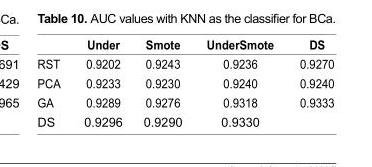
<table><thead><tr><td></td><td>Under</td><td>Smote</td><td>UnderSmote</td><td>DS</td></tr></thead><tbody><tr><td>RST</td><td>0.9202</td><td>0.9243</td><td>0.9236</td><td>0.9270</td></tr><tr><td>PCA</td><td>0.9233</td><td>0.9230</td><td>0.9240</td><td>0.9240</td></tr><tr><td>GA</td><td>0.9289</td><td>0.9276</td><td>0.9318</td><td>0.9333</td></tr><tr><td>DS</td><td>0.9296</td><td>0.9290</td><td>0.9330</td><td></td></tr></tbody></table>